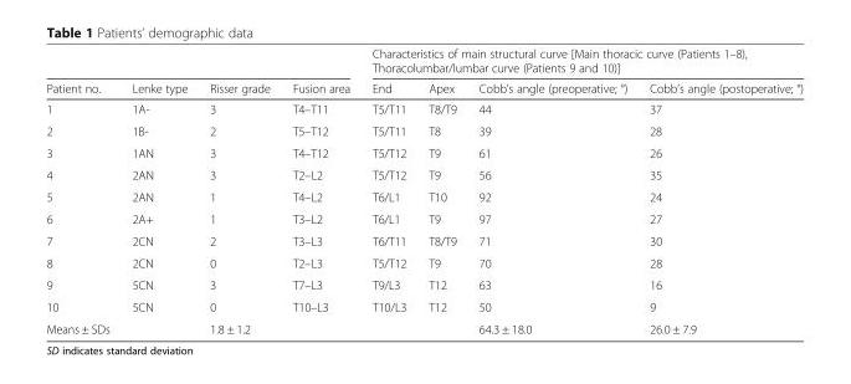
<table><thead><tr><td rowspan="2">Patient no.</td><td rowspan="2">Lenke type</td><td rowspan="2">Risser grade</td><td rowspan="2">Fusion area</td><td colspan="4">Characteristics of main structural curve [Main thoracic curve (Patients 1–8), Thoracolumbar/lumbar curve (Patients 9 and 10)]</td></tr><tr><td>End</td><td>Apex</td><td>Cobb’s angle (preoperative; °)</td><td>Cobb’s angle (postoperative; °)</td></tr></thead><tbody><tr><td>1</td><td>1A-</td><td>3</td><td>T4–T11</td><td>T5/T11</td><td>T8/T9</td><td>44</td><td>37</td></tr><tr><td>2</td><td>1B-</td><td>2</td><td>T5–T12</td><td>T5/T11</td><td>T8</td><td>39</td><td>28</td></tr><tr><td>3</td><td>1AN</td><td>3</td><td>T4–T12</td><td>T5/T12</td><td>T9</td><td>61</td><td>26</td></tr><tr><td>4</td><td>2AN</td><td>3</td><td>T2–L2</td><td>T5/T12</td><td>T9</td><td>56</td><td>35</td></tr><tr><td>5</td><td>2AN</td><td>1</td><td>T4–L2</td><td>T6/L1</td><td>T10</td><td>92</td><td>24</td></tr><tr><td>6</td><td>2A+</td><td>1</td><td>T3–L2</td><td>T6/L1</td><td>T9</td><td>97</td><td>27</td></tr><tr><td>7</td><td>2CN</td><td>2</td><td>T3–L3</td><td>T6/T11</td><td>T8/T9</td><td>71</td><td>30</td></tr><tr><td>8</td><td>2CN</td><td>0</td><td>T2–L3</td><td>T5/T12</td><td>T9</td><td>70</td><td>28</td></tr><tr><td>9</td><td>5CN</td><td>3</td><td>T7–L3</td><td>T9/L3</td><td>T12</td><td>63</td><td>16</td></tr><tr><td>10</td><td>5CN</td><td>0</td><td>T10–L3</td><td>T10/L3</td><td>T12</td><td>50</td><td>9</td></tr><tr><td>Means ± SDs</td><td></td><td>1.8 ± 1.2</td><td></td><td></td><td></td><td>64.3 ± 18.0</td><td>26.0 ± 7.9</td></tr></tbody></table>